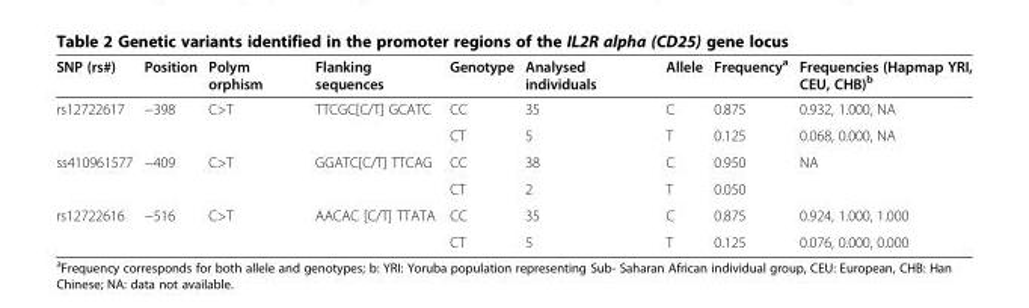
<table><thead><tr><td>SNP (rs#)</td><td>Position</td><td>Polym orphism</td><td>Flanking sequences</td><td>Genotype</td><td>Analysed individuals</td><td>Allele</td><td>Frequency<sup>a</sup></td><td>Frequencies (Hapmap YRI, CEU, CHB)<sup>b</sup></td></tr></thead><tbody><tr><td rowspan="2">rs12722617</td><td rowspan="2">−398</td><td rowspan="2">C&gt;T</td><td rowspan="2">TTCGC[C/T] GCATC</td><td>CC</td><td>35</td><td>C</td><td>0.875</td><td>0.932, 1.000, NA</td></tr><tr><td>CT</td><td>5</td><td>T</td><td>0.125</td><td>0.068, 0.000, NA</td></tr><tr><td rowspan="2">ss410961577</td><td rowspan="2">−409</td><td rowspan="2">C&gt;T</td><td rowspan="2">GGATC[C/T] TTCAG</td><td>CC</td><td>38</td><td>C</td><td>0.950</td><td rowspan="2">NA</td></tr><tr><td>CT</td><td>2</td><td>T</td><td>0.050</td></tr><tr><td rowspan="2">rs12722616</td><td>−516</td><td>C&gt;T</td><td>AACAC [C/T] TTATA</td><td>CC</td><td>35</td><td>C</td><td>0.875</td><td>0.924, 1.000, 1.000</td></tr><tr><td></td><td></td><td></td><td>CT</td><td>5</td><td>T</td><td>0.125</td><td>0.076, 0.000, 0.000</td></tr></tbody></table>